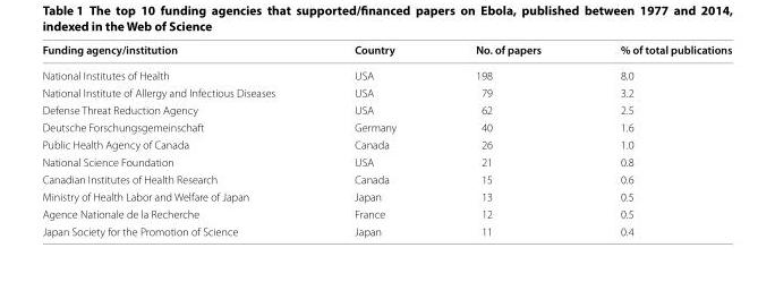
<table><thead><tr><td>Funding agency/institution</td><td>Country</td><td>No. of papers</td><td>% of total publications</td></tr></thead><tbody><tr><td>National Institutes of Health</td><td>USA</td><td>198</td><td>8.0</td></tr><tr><td>National Institute of Allergy and Infectious Diseases</td><td>USA</td><td>79</td><td>3.2</td></tr><tr><td>Defense Threat Reduction Agency</td><td>USA</td><td>62</td><td>2.5</td></tr><tr><td>Deutsche Forschungsgemeinschaft</td><td>Germany</td><td>40</td><td>1.6</td></tr><tr><td>Public Health Agency of Canada</td><td>Canada</td><td>26</td><td>1.0</td></tr><tr><td>National Science Foundation</td><td>USA</td><td>21</td><td>0.8</td></tr><tr><td>Canadian Institutes of Health Research</td><td>Canada</td><td>15</td><td>0.6</td></tr><tr><td>Ministry of Health Labor and Welfare of Japan</td><td>Japan</td><td>13</td><td>0.5</td></tr><tr><td>Agence Nationale de la Recherche</td><td>France</td><td>12</td><td>0.5</td></tr><tr><td>Japan Society for the Promotion of Science</td><td>Japan</td><td>11</td><td>0.4</td></tr></tbody></table>